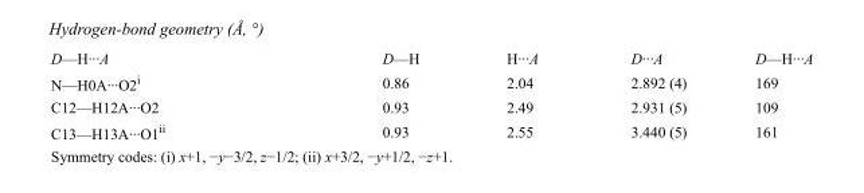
<table><tbody><tr><td>D—H···A</td><td>D—H</td><td>H···A</td><td>D···A</td><td>D—H···A</td></tr><tr><td>N—H0A···O2<sup>i</sup></td><td>0.86</td><td>2.04</td><td>2.892 (4)</td><td>169</td></tr><tr><td>C12—H12A···O2</td><td>0.93</td><td>2.49</td><td>2.931 (5)</td><td>109</td></tr><tr><td>C13—H13A···O1<sup>ii</sup></td><td>0.93</td><td>2.55</td><td>3.440 (5)</td><td>161</td></tr></tbody></table>